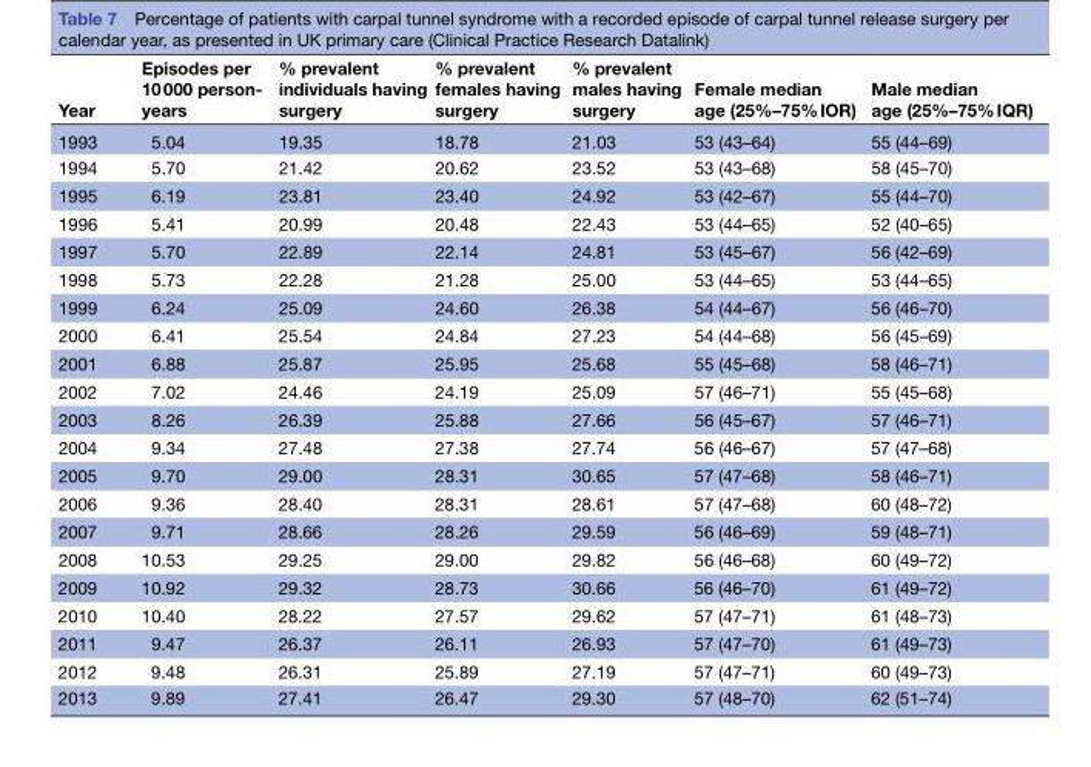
<table><thead><tr><td>Year</td><td>Episodes per 10 000 person- years</td><td>% prevalent individuals having surgery</td><td>% prevalent females having surgery</td><td>% prevalent males having surgery</td><td>Female median age (25%–75% IOR)</td><td>Male median age (25%–75% IQR)</td></tr></thead><tbody><tr><td>1993</td><td>5.04</td><td>19.35</td><td>18.78</td><td>21.03</td><td>53 (43–64)</td><td>55 (44–69)</td></tr><tr><td>1994</td><td>5.70</td><td>21.42</td><td>20.62</td><td>23.52</td><td>53 (43–68)</td><td>58 (45–70)</td></tr><tr><td>1995</td><td>6.19</td><td>23.81</td><td>23.40</td><td>24.92</td><td>53 (42–67)</td><td>55 (44–70)</td></tr><tr><td>1996</td><td>5.41</td><td>20.99</td><td>20.48</td><td>22.43</td><td>53 (44–65)</td><td>52 (40–65)</td></tr><tr><td>1997</td><td>5.70</td><td>22.89</td><td>22.14</td><td>24.81</td><td>53 (45–67)</td><td>56 (42–69)</td></tr><tr><td>1998</td><td>5.73</td><td>22.28</td><td>21.28</td><td>25.00</td><td>53 (44–65)</td><td>53 (44–65)</td></tr><tr><td>1999</td><td>6.24</td><td>25.09</td><td>24.60</td><td>26.38</td><td>54 (44–67)</td><td>56 (46–70)</td></tr><tr><td>2000</td><td>6.41</td><td>25.54</td><td>24.84</td><td>27.23</td><td>54 (44–68)</td><td>56 (45–69)</td></tr><tr><td>2001</td><td>6.88</td><td>25.87</td><td>25.95</td><td>25.68</td><td>55 (45–68)</td><td>58 (46–71)</td></tr><tr><td>2002</td><td>7.02</td><td>24.46</td><td>24.19</td><td>25.09</td><td>57 (46–71)</td><td>55 (45–68)</td></tr><tr><td>2003</td><td>8.26</td><td>26.39</td><td>25.88</td><td>27.66</td><td>56 (45–67)</td><td>57 (46–71)</td></tr><tr><td>2004</td><td>9.34</td><td>27.48</td><td>27.38</td><td>27.74</td><td>56 (46–67)</td><td>57 (47–68)</td></tr><tr><td>2005</td><td>9.70</td><td>29.00</td><td>28.31</td><td>30.65</td><td>57 (47–68)</td><td>58 (46–71)</td></tr><tr><td>2006</td><td>9.36</td><td>28.40</td><td>28.31</td><td>28.61</td><td>57 (47–68)</td><td>60 (48–72)</td></tr><tr><td>2007</td><td>9.71</td><td>28.66</td><td>28.26</td><td>29.59</td><td>56 (46–69)</td><td>59 (48–71)</td></tr><tr><td>2008</td><td>10.53</td><td>29.25</td><td>29.00</td><td>29.82</td><td>56 (46–68)</td><td>60 (49–72)</td></tr><tr><td>2009</td><td>10.92</td><td>29.32</td><td>28.73</td><td>30.66</td><td>56 (46–70)</td><td>61 (49–72)</td></tr><tr><td>2010</td><td>10.40</td><td>28.22</td><td>27.57</td><td>29.62</td><td>57 (47–71)</td><td>61 (48–73)</td></tr><tr><td>2011</td><td>9.47</td><td>26.37</td><td>26.11</td><td>26.93</td><td>57 (47–70)</td><td>61 (49–73)</td></tr><tr><td>2012</td><td>9.48</td><td>26.31</td><td>25.89</td><td>27.19</td><td>57 (47–71)</td><td>60 (49–73)</td></tr><tr><td>2013</td><td>9.89</td><td>27.41</td><td>26.47</td><td>29.30</td><td>57 (48–70)</td><td>62 (51–74)</td></tr></tbody></table>